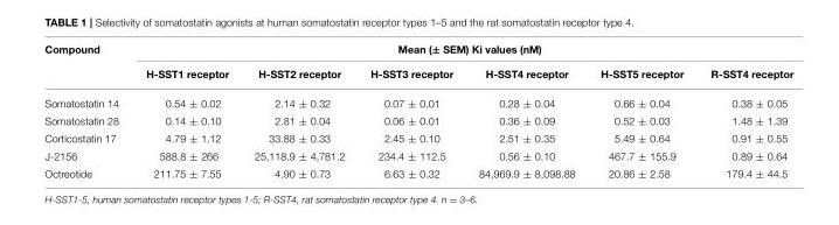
<table><thead><tr><td rowspan="2">Compound</td><td colspan="6">Mean (± SEM) Ki values (nM)</td></tr><tr><td>H-SST1 receptor</td><td>H-SST2 receptor</td><td>H-SST3 receptor</td><td>H-SST4 receptor</td><td>H-SST5 receptor</td><td>R-SST4 receptor</td></tr></thead><tbody><tr><td>Somatostatin 14</td><td>0.54 ± 0.02</td><td>2.14 ± 0.32</td><td>0.07 ± 0.01</td><td>0.28 ± 0.04</td><td>0.66 ± 0.04</td><td>0.38 ± 0.05</td></tr><tr><td>Somatostatin 28</td><td>0.14 ± 0.10</td><td>2.81 ± 0.04</td><td>0.06 ± 0.01</td><td>0.36 ± 0.09</td><td>0.52 ± 0.03</td><td>1.48 ± 1.39</td></tr><tr><td>Corticostatin 17</td><td>4.79 ± 1.12</td><td>33.88 ± 0.33</td><td>2.45 ± 0.10</td><td>2.51 ± 0.35</td><td>5.49 ± 0.64</td><td>0.91 ± 0.55</td></tr><tr><td>J-2156</td><td>588.8 ± 266</td><td>25,118.9 ± 4,781.2</td><td>234.4 ± 112.5</td><td>0.56 ± 0.10</td><td>467.7 ± 155.9</td><td>0.89 ± 0.64</td></tr><tr><td>Octreotide</td><td>211.75 ± 7.55</td><td>4.90 ± 0.73</td><td>6.63 ± 0.32</td><td>84,969.9 ± 8,098.88</td><td>20.86 ± 2.58</td><td>179.4 ± 44.5</td></tr></tbody></table>